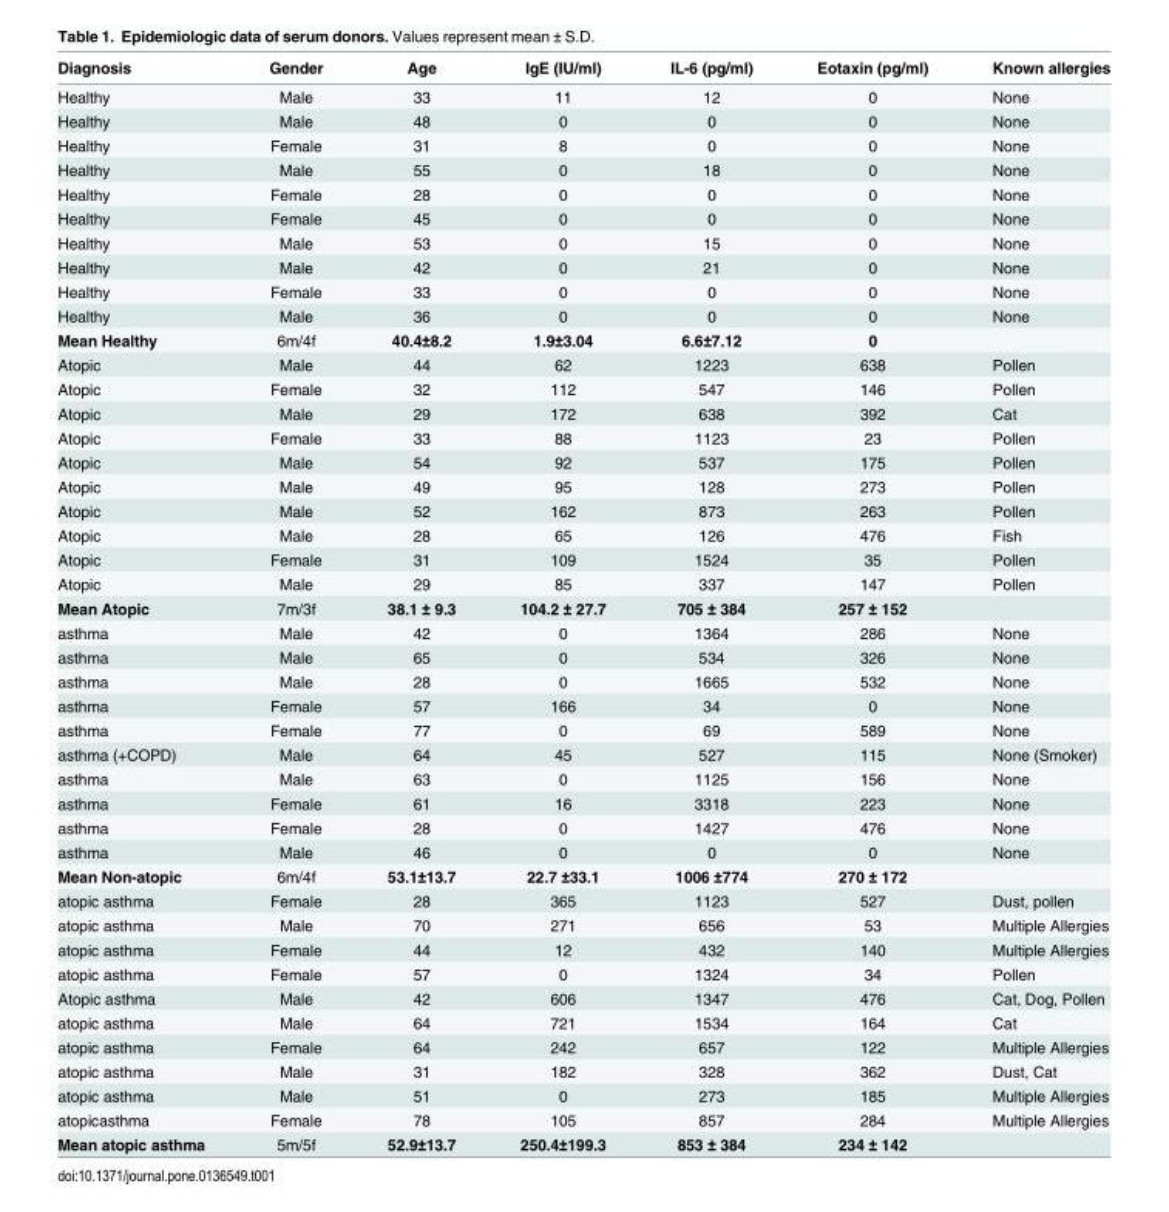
<table><thead><tr><td>Diagnosis</td><td>Gender</td><td>Age</td><td>IgE (IU/ml)</td><td>IL-6 (pg/ml)</td><td>Eotaxin (pg/ml)</td><td>Known allergies</td></tr></thead><tbody><tr><td>Healthy</td><td>Male</td><td>33</td><td>11</td><td>12</td><td>0</td><td>None</td></tr><tr><td>Healthy</td><td>Male</td><td>48</td><td>0</td><td>0</td><td>0</td><td>None</td></tr><tr><td>Healthy</td><td>Female</td><td>31</td><td>8</td><td>0</td><td>0</td><td>None</td></tr><tr><td>Healthy</td><td>Male</td><td>55</td><td>0</td><td>18</td><td>0</td><td>None</td></tr><tr><td>Healthy</td><td>Female</td><td>28</td><td>0</td><td>0</td><td>0</td><td>None</td></tr><tr><td>Healthy</td><td>Female</td><td>45</td><td>0</td><td>0</td><td>0</td><td>None</td></tr><tr><td>Healthy</td><td>Male</td><td>53</td><td>0</td><td>15</td><td>0</td><td>None</td></tr><tr><td>Healthy</td><td>Male</td><td>42</td><td>0</td><td>21</td><td>0</td><td>None</td></tr><tr><td>Healthy</td><td>Female</td><td>33</td><td>0</td><td>0</td><td>0</td><td>None</td></tr><tr><td>Healthy</td><td>Male</td><td>36</td><td>0</td><td>0</td><td>0</td><td>None</td></tr><tr><td>Mean Healthy</td><td>6m/4f</td><td>40.4±8.2</td><td>1.9±3.04</td><td>6.6±7.12</td><td>0</td><td></td></tr><tr><td>Atopic</td><td>Male</td><td>44</td><td>62</td><td>1223</td><td>638</td><td>Pollen</td></tr><tr><td>Atopic</td><td>Female</td><td>32</td><td>112</td><td>547</td><td>146</td><td>Pollen</td></tr><tr><td>Atopic</td><td>Male</td><td>29</td><td>172</td><td>638</td><td>392</td><td>Cat</td></tr><tr><td>Atopic</td><td>Female</td><td>33</td><td>88</td><td>1123</td><td>23</td><td>Pollen</td></tr><tr><td>Atopic</td><td>Male</td><td>54</td><td>92</td><td>537</td><td>175</td><td>Pollen</td></tr><tr><td>Atopic</td><td>Male</td><td>49</td><td>95</td><td>128</td><td>273</td><td>Pollen</td></tr><tr><td>Atopic</td><td>Male</td><td>52</td><td>162</td><td>873</td><td>263</td><td>Pollen</td></tr><tr><td>Atopic</td><td>Male</td><td>28</td><td>65</td><td>126</td><td>476</td><td>Fish</td></tr><tr><td>Atopic</td><td>Female</td><td>31</td><td>109</td><td>1524</td><td>35</td><td>Pollen</td></tr><tr><td>Atopic</td><td>Male</td><td>29</td><td>85</td><td>337</td><td>147</td><td>Pollen</td></tr><tr><td>Mean Atopic</td><td>7m/3f</td><td>38.1 ± 9.3</td><td>104.2 ± 27.7</td><td>705 ± 384</td><td>257 ± 152</td><td></td></tr><tr><td>asthma</td><td>Male</td><td>42</td><td>0</td><td>1364</td><td>286</td><td>None</td></tr><tr><td>asthma</td><td>Male</td><td>65</td><td>0</td><td>534</td><td>326</td><td>None</td></tr><tr><td>asthma</td><td>Male</td><td>28</td><td>0</td><td>1665</td><td>532</td><td>None</td></tr><tr><td>asthma</td><td>Female</td><td>57</td><td>166</td><td>34</td><td>0</td><td>None</td></tr><tr><td>asthma</td><td>Female</td><td>77</td><td>0</td><td>69</td><td>589</td><td>None</td></tr><tr><td>asthma (+COPD)</td><td>Male</td><td>64</td><td>45</td><td>527</td><td>115</td><td>None (Smoker)</td></tr><tr><td>asthma</td><td>Male</td><td>63</td><td>0</td><td>1125</td><td>156</td><td>None</td></tr><tr><td>asthma</td><td>Female</td><td>61</td><td>16</td><td>3318</td><td>223</td><td>None</td></tr><tr><td>asthma</td><td>Female</td><td>28</td><td>0</td><td>1427</td><td>476</td><td>None</td></tr><tr><td>asthma</td><td>Male</td><td>46</td><td>0</td><td>0</td><td>0</td><td>None</td></tr><tr><td>Mean Non-atopic</td><td>6m/4f</td><td>53.1±13.7</td><td>22.7 ±33.1</td><td>1006 ±774</td><td>270 ± 172</td><td></td></tr><tr><td>atopic asthma</td><td>Female</td><td>28</td><td>365</td><td>1123</td><td>527</td><td>Dust, pollen</td></tr><tr><td>atopic asthma</td><td>Male</td><td>70</td><td>271</td><td>656</td><td>53</td><td>Multiple Allergies</td></tr><tr><td>atopic asthma</td><td>Female</td><td>44</td><td>12</td><td>432</td><td>140</td><td>Multiple Allergies</td></tr><tr><td>atopic asthma</td><td>Female</td><td>57</td><td>0</td><td>1324</td><td>34</td><td>Pollen</td></tr><tr><td>Atopic asthma</td><td>Male</td><td>42</td><td>606</td><td>1347</td><td>476</td><td>Cat, Dog, Pollen</td></tr><tr><td>atopic asthma</td><td>Male</td><td>64</td><td>721</td><td>1534</td><td>164</td><td>Cat</td></tr><tr><td>atopic asthma</td><td>Female</td><td>64</td><td>242</td><td>657</td><td>122</td><td>Multiple Allergies</td></tr><tr><td>atopic asthma</td><td>Male</td><td>31</td><td>182</td><td>328</td><td>362</td><td>Dust, Cat</td></tr><tr><td>atopic asthma</td><td>Male</td><td>51</td><td>0</td><td>273</td><td>185</td><td>Multiple Allergies</td></tr><tr><td>atopicasthma</td><td>Female</td><td>78</td><td>105</td><td>857</td><td>284</td><td>Multiple Allergies</td></tr><tr><td>Mean atopic asthma</td><td>5m/5f</td><td>52.9±13.7</td><td>250.4±199.3</td><td>853 ± 384</td><td>234 ± 142</td><td></td></tr></tbody></table>